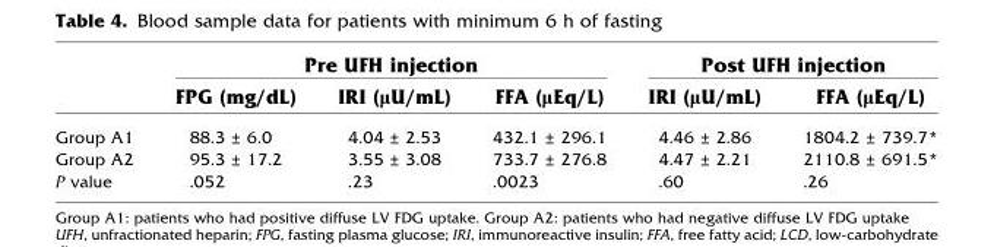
<table><thead><tr><td rowspan="2"></td><td colspan="3">Pre UFH injection</td><td colspan="2">Post UFH injection</td></tr><tr><td>FPG (mg/dL)</td><td>IRI (μU/mL)</td><td>FFA (μEq/L)</td><td>IRI (μU/mL)</td><td>FFA (μEq/L)</td></tr></thead><tbody><tr><td>Group A1</td><td>88.3 ± 6.0</td><td>4.04 ± 2.53</td><td>432.1 ± 296.1</td><td>4.46 ± 2.86</td><td>1804.2 ± 739.7*</td></tr><tr><td>Group A2</td><td>95.3 ± 17.2</td><td>3.55 ± 3.08</td><td>733.7 ± 276.8</td><td>4.47 ± 2.21</td><td>2110.8 ± 691.5*</td></tr><tr><td>P value</td><td>.052</td><td>.23</td><td>.0023</td><td>.60</td><td>.26</td></tr></tbody></table>